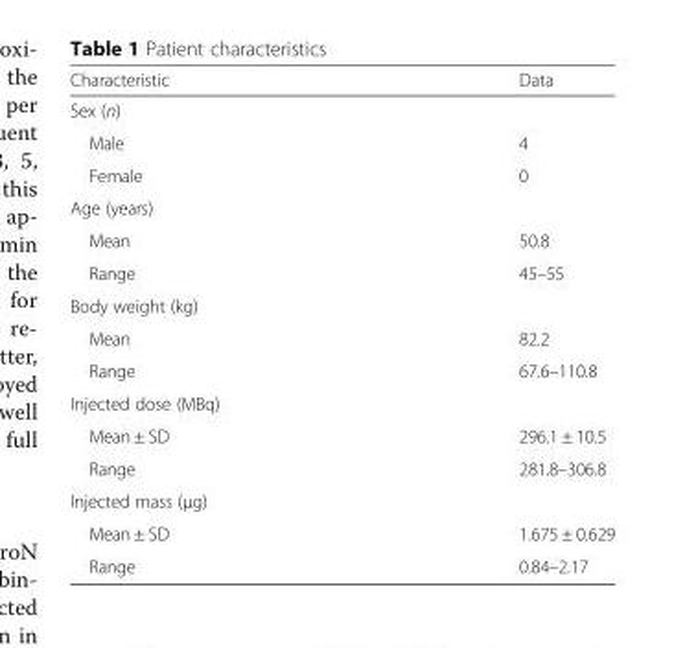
<table><thead><tr><td>Characteristic</td><td>Data</td></tr></thead><tbody><tr><td colspan="2">Sex (n)</td></tr><tr><td>Male</td><td>4</td></tr><tr><td>Female</td><td>0</td></tr><tr><td colspan="2">Age (years)</td></tr><tr><td>Mean</td><td>50.8</td></tr><tr><td>Range</td><td>45–55</td></tr><tr><td colspan="2">Body weight (kg)</td></tr><tr><td>Mean</td><td>82.2</td></tr><tr><td>Range</td><td>67.6–110.8</td></tr><tr><td colspan="2">Injected dose (MBq)</td></tr><tr><td>Mean ± SD</td><td>296.1 ± 10.5</td></tr><tr><td>Range</td><td>281.8–306.8</td></tr><tr><td colspan="2">Injected mass (μg)</td></tr><tr><td>Mean ± SD</td><td>1.675 ± 0.629</td></tr><tr><td>Range</td><td>0.84–2.17</td></tr></tbody></table>